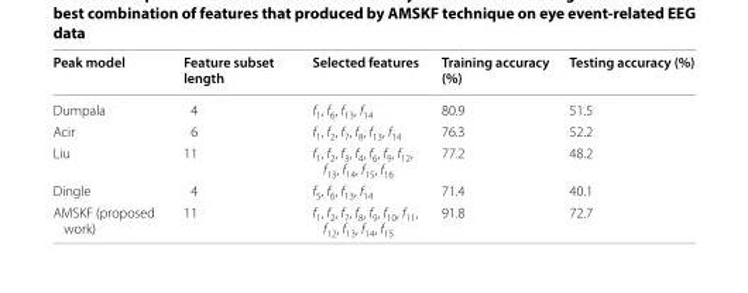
<table><thead><tr><td>Peak model</td><td>Feature subset length</td><td>Selected features</td><td>Training accuracy (%)</td><td>Testing accuracy (%)</td></tr></thead><tbody><tr><td>Dumpala</td><td>4</td><td>f<sub>1</sub>, f<sub>6</sub>, f<sub>13</sub>, f<sub>14</sub></td><td>80.9</td><td>51.5</td></tr><tr><td>Acir</td><td>6</td><td>f<sub>1</sub>, f<sub>2</sub>, f<sub>7</sub>, f<sub>8</sub>, f<sub>13</sub>, f<sub>14</sub></td><td>76.3</td><td>52.2</td></tr><tr><td>Liu</td><td>11</td><td>f<sub>1</sub>, f<sub>2</sub>, f<sub>3</sub>, f<sub>4</sub>, f<sub>6</sub>, f<sub>9</sub>, f<sub>12</sub>, f<sub>13</sub>, f<sub>14</sub>, f<sub>15</sub>, f<sub>16</sub></td><td>77.2</td><td>48.2</td></tr><tr><td>Dingle</td><td>4</td><td>f<sub>5</sub>, f<sub>6</sub>, f<sub>13</sub>, f<sub>14</sub></td><td>71.4</td><td>40.1</td></tr><tr><td>AMSKF (proposed work)</td><td>11</td><td>f<sub>1</sub>, f<sub>2</sub>, f<sub>7</sub>, f<sub>8</sub>, f<sub>9</sub>, f<sub>10</sub>, f<sub>11</sub>, f<sub>12</sub>, f<sub>13</sub>, f<sub>14</sub>, f<sub>15</sub></td><td>91.8</td><td>72.7</td></tr></tbody></table>